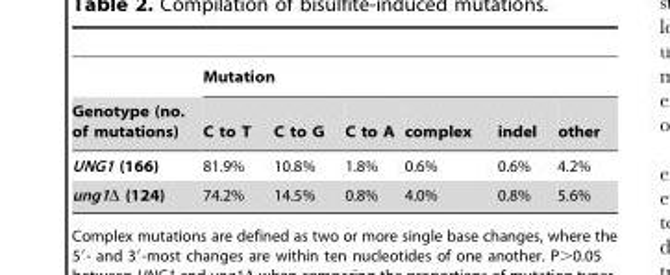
<table><thead><tr><td rowspan="2">Genotype (no. of mutations)</td><td colspan="6">Mutation</td></tr><tr><td>C to T</td><td>C to G</td><td>C to A</td><td>complex</td><td>indel</td><td>other</td></tr></thead><tbody><tr><td>UNG1 (166)</td><td>81.9%</td><td>10.8%</td><td>1.8%</td><td>0.6%</td><td>0.6%</td><td>4.2%</td></tr><tr><td>ung1Δ (124)</td><td>74.2%</td><td>14.5%</td><td>0.8%</td><td>4.0%</td><td>0.8%</td><td>5.6%</td></tr></tbody></table>